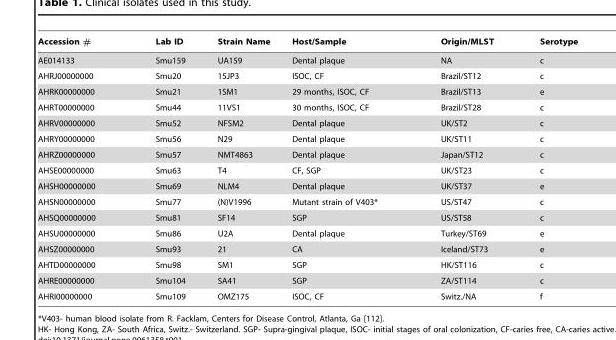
<table><thead><tr><td>Accession #</td><td>Lab ID</td><td>Strain Name</td><td>Host/Sample</td><td>Origin/MLST</td><td>Serotype</td></tr></thead><tbody><tr><td>AE014133</td><td>Smu159</td><td>UA159</td><td>Dental plaque</td><td>NA</td><td>c</td></tr><tr><td>AHRJ00000000</td><td>Smu20</td><td>15JP3</td><td>ISOC, CF</td><td>Brazil/ST12</td><td>c</td></tr><tr><td>AHRK00000000</td><td>Smu21</td><td>1SM1</td><td>29 months, ISOC, CF</td><td>Brazil/ST13</td><td>e</td></tr><tr><td>AHRT00000000</td><td>Smu44</td><td>11VS1</td><td>30 months, ISOC, CF</td><td>Brazil/ST28</td><td>c</td></tr><tr><td>AHRV00000000</td><td>Smu52</td><td>NFSM2</td><td>Dental plaque</td><td>UK/ST2</td><td>c</td></tr><tr><td>AHRY00000000</td><td>Smu56</td><td>N29</td><td>Dental plaque</td><td>UK/ST11</td><td>c</td></tr><tr><td>AHRZ00000000</td><td>Smu57</td><td>NMT4863</td><td>Dental plaque</td><td>Japan/ST12</td><td>c</td></tr><tr><td>AHSE00000000</td><td>Smu63</td><td>T4</td><td>CF, SGP</td><td>UK/ST23</td><td>c</td></tr><tr><td>AHSH00000000</td><td>Smu69</td><td>NLM4</td><td>Dental plaque</td><td>UK/ST37</td><td>e</td></tr><tr><td>AHSN00000000</td><td>Smu77</td><td>(N)V1996</td><td>Mutant strain of V403*</td><td>US/ST47</td><td>c</td></tr><tr><td>AHSQ00000000</td><td>Smu81</td><td>SF14</td><td>SGP</td><td>US/ST58</td><td>c</td></tr><tr><td>AHSU00000000</td><td>Smu86</td><td>U2A</td><td>Dental plaque</td><td>Turkey/ST69</td><td>e</td></tr><tr><td>AHSZ00000000</td><td>Smu93</td><td>21</td><td>CA</td><td>Iceland/ST73</td><td>e</td></tr><tr><td>AHTD00000000</td><td>Smu98</td><td>SM1</td><td>SGP</td><td>HK/ST116</td><td>c</td></tr><tr><td>AHRE00000000</td><td>Smu104</td><td>SA41</td><td>SGP</td><td>ZA/ST114</td><td>c</td></tr><tr><td>AHRI00000000</td><td>Smu109</td><td>OMZ175</td><td>ISOC, CF</td><td>Switz./NA</td><td>f</td></tr></tbody></table>